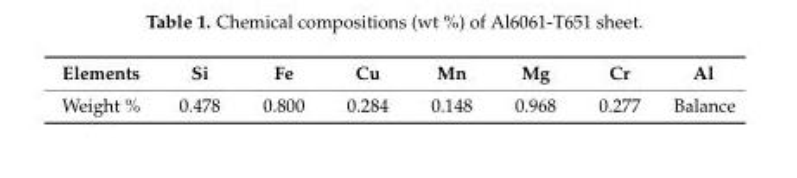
<table><thead><tr><td>Elements</td><td>Si</td><td>Fe</td><td>Cu</td><td>Mn</td><td>Mg</td><td>Cr</td><td>Al</td></tr></thead><tbody><tr><td>Weight %</td><td>0.478</td><td>0.800</td><td>0.284</td><td>0.148</td><td>0.968</td><td>0.277</td><td>Balance</td></tr></tbody></table>